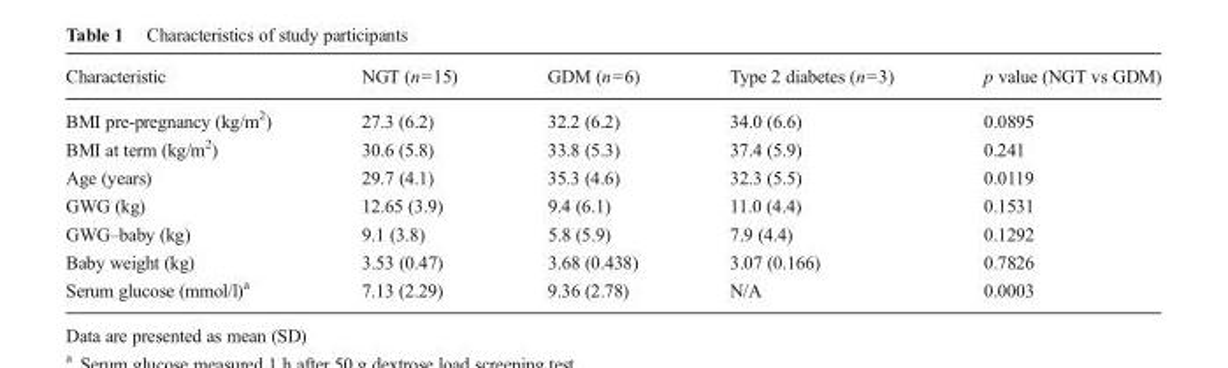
<table><thead><tr><td>Characteristic</td><td>NGT (n=15)</td><td>GDM (n=6)</td><td>Type 2 diabetes (n=3)</td><td>p value (NGT vs GDM)</td></tr></thead><tbody><tr><td>BMI pre-pregnancy (kg/m<sup>2</sup>)</td><td>27.3 (6.2)</td><td>32.2 (6.2)</td><td>34.0 (6.6)</td><td>0.0895</td></tr><tr><td>BMI at term (kg/m<sup>2</sup>)</td><td>30.6 (5.8)</td><td>33.8 (5.3)</td><td>37.4 (5.9)</td><td>0.241</td></tr><tr><td>Age (years)</td><td>29.7 (4.1)</td><td>35.3 (4.6)</td><td>32.3 (5.5)</td><td>0.0119</td></tr><tr><td>GWG (kg)</td><td>12.65 (3.9)</td><td>9.4 (6.1)</td><td>11.0 (4.4)</td><td>0.1531</td></tr><tr><td>GWG–baby (kg)</td><td>9.1 (3.8)</td><td>5.8 (5.9)</td><td>7.9 (4.4)</td><td>0.1292</td></tr><tr><td>Baby weight (kg)</td><td>3.53 (0.47)</td><td>3.68 (0.438)</td><td>3.07 (0.166)</td><td>0.7826</td></tr><tr><td>Serum glucose (mmol/l)<sup>a</sup></td><td>7.13 (2.29)</td><td>9.36 (2.78)</td><td>N/A</td><td>0.0003</td></tr></tbody></table>